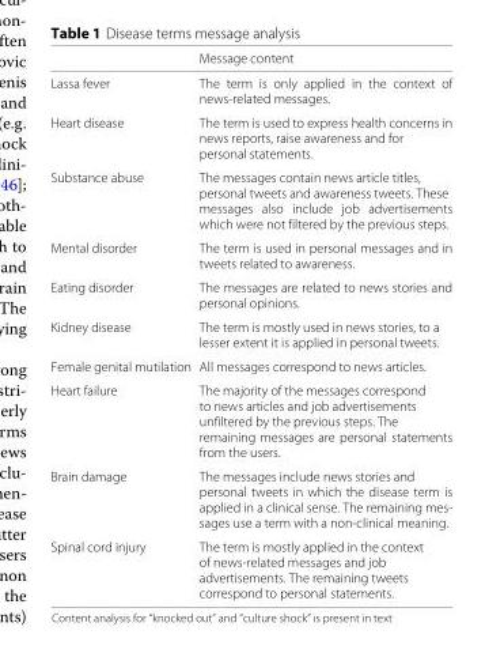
<table><thead><tr><td></td><td>Message content</td></tr></thead><tbody><tr><td>Lassa fever</td><td>The term is only applied in the context of news-related messages.</td></tr><tr><td>Heart disease</td><td>The term is used to express health concerns in news reports, raise awareness and for personal statements.</td></tr><tr><td>Substance abuse</td><td>The messages contain news article titles, personal tweets and awareness tweets. These messages also include job advertisements which were not filtered by the previous steps.</td></tr><tr><td>Mental disorder</td><td>The term is used in personal messages and in tweets related to awareness.</td></tr><tr><td>Eating disorder</td><td>The messages are related to news stories and personal opinions.</td></tr><tr><td>Kidney disease</td><td>The term is mostly used in news stories, to a lesser extent it is applied in personal tweets.</td></tr><tr><td>Female genital mutilation</td><td>All messages correspond to news articles.</td></tr><tr><td>Heart failure</td><td>The majority of the messages correspond to news articles and job advertisements unfiltered by the previous steps. The remaining messages are personal statements from the users.</td></tr><tr><td>Brain damage</td><td>The messages include news stories and personal tweets in which the disease term is applied in a clinical sense. The remaining mes- sages use a term with a non-clinical meaning.</td></tr><tr><td>Spinal cord injury</td><td>The term is mostly applied in the context of news-related messages and job advertisements. The remaining tweets correspond to personal statements.</td></tr></tbody></table>